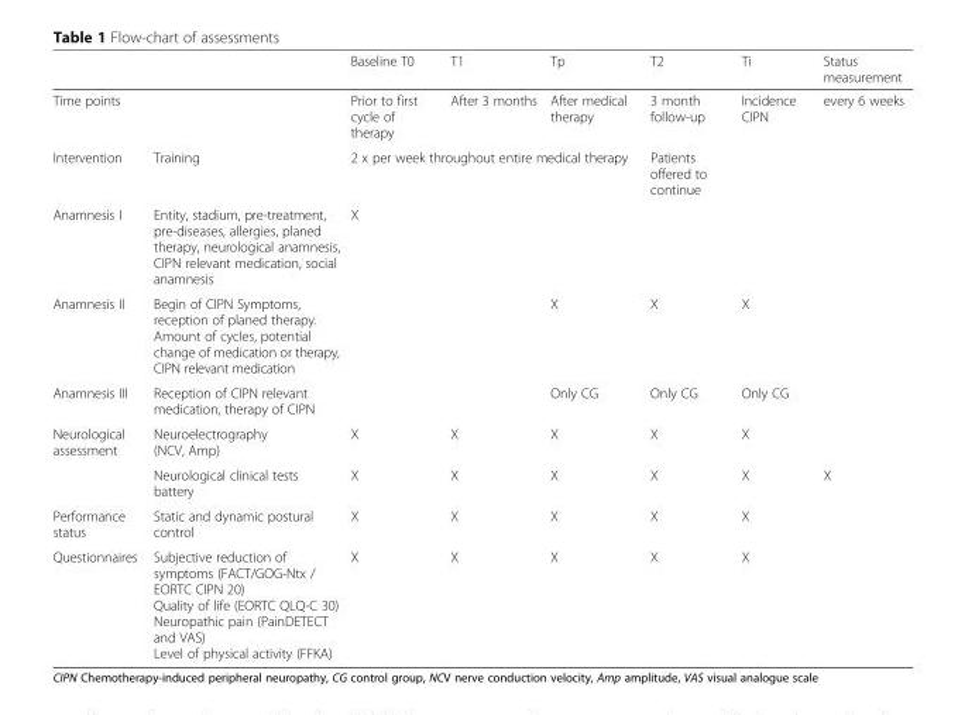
<table><thead><tr><td></td><td></td><td>Baseline T0</td><td>T1</td><td>Tp</td><td>T2</td><td>Ti</td><td>Status measurement</td></tr></thead><tbody><tr><td>Time points</td><td></td><td>Prior to first cycle of therapy</td><td>After 3 months</td><td>After medical therapy</td><td>3 month follow-up</td><td>Incidence CIPN</td><td>every 6 weeks</td></tr><tr><td>Intervention</td><td>Training</td><td colspan="3">2 x per week throughout entire medical therapy</td><td>Patients offered to continue</td><td></td><td></td></tr><tr><td>Anamnesis I</td><td>Entity, stadium, pre-treatment, pre-diseases, allergies, planed therapy, neurological anamnesis, CIPN relevant medication, social anamnesis</td><td>X</td><td></td><td></td><td></td><td></td><td></td></tr><tr><td>Anamnesis II</td><td>Begin of CIPN Symptoms, reception of planed therapy. Amount of cycles, potential change of medication or therapy, CIPN relevant medication</td><td></td><td></td><td>X</td><td>X</td><td>X</td><td></td></tr><tr><td>Anamnesis III</td><td>Reception of CIPN relevant medication, therapy of CIPN</td><td></td><td></td><td>Only CG</td><td>Only CG</td><td>Only CG</td><td></td></tr><tr><td rowspan="2">Neurological assessment</td><td>Neuroelectrography (NCV, Amp)</td><td>X</td><td>X</td><td>X</td><td>X</td><td>X</td><td></td></tr><tr><td>Neurological clinical tests battery</td><td>X</td><td>X</td><td>X</td><td>X</td><td>X</td><td>X</td></tr><tr><td>Performance status</td><td>Static and dynamic postural control</td><td>X</td><td>X</td><td>X</td><td>X</td><td>X</td><td></td></tr><tr><td>Questionnaires</td><td>Subjective reduction of symptoms (FACT/GOG-Ntx / EORTC CIPN 20) Quality of life (EORTC QLQ-C 30) Neuropathic pain (PainDETECT and VAS) Level of physical activity (FFKA)</td><td>X</td><td>X</td><td>X</td><td>X</td><td>X</td><td></td></tr></tbody></table>